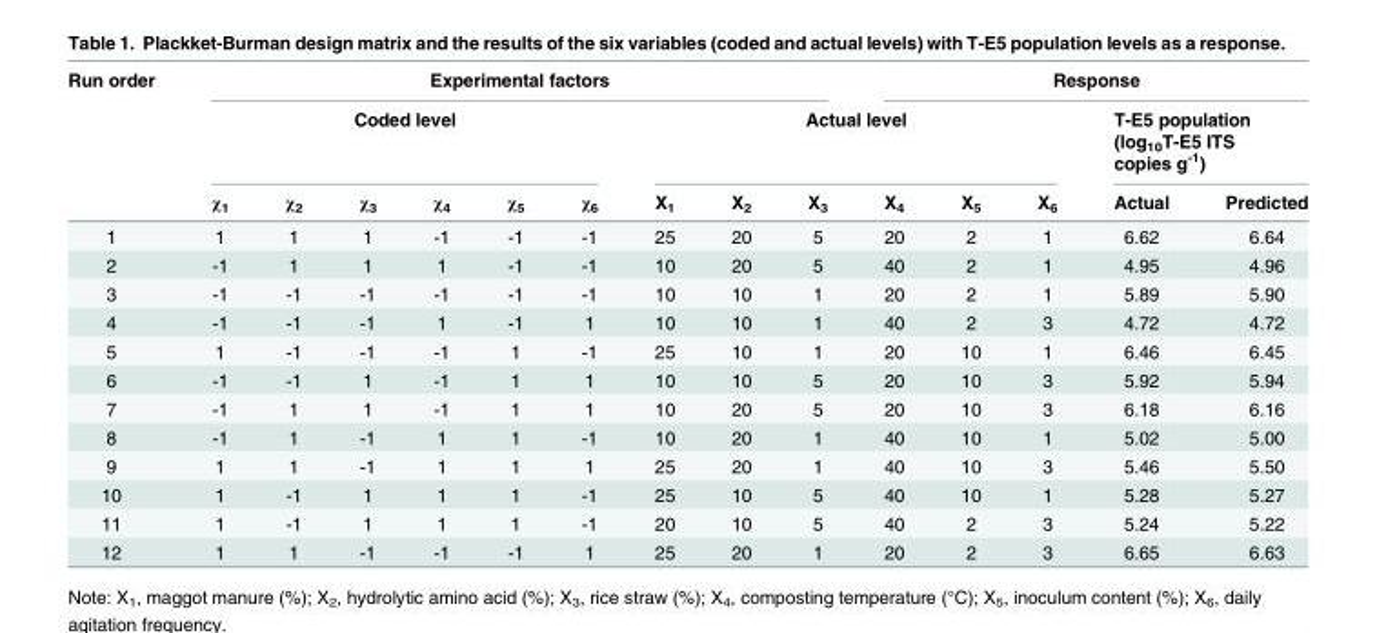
<table><thead><tr><td rowspan="3">Run order</td><td colspan="9">Experimental factors</td><td colspan="5">Response</td></tr><tr><td colspan="6">Coded level</td><td colspan="6">Actual level</td><td colspan="2">T-E5 population (log<sub>10</sub>T-E5 ITS copies g<sup>-1</sup>)</td></tr><tr><td>χ<sub>1</sub></td><td>χ<sub>2</sub></td><td>χ<sub>3</sub></td><td>χ<sub>4</sub></td><td>χ<sub>5</sub></td><td>χ<sub>6</sub></td><td>X<sub>1</sub></td><td>X<sub>2</sub></td><td>X<sub>3</sub></td><td>X<sub>4</sub></td><td>X<sub>5</sub></td><td>X<sub>6</sub></td><td>Actual</td><td>Predicted</td></tr></thead><tbody><tr><td>1</td><td>1</td><td>1</td><td>1</td><td>-1</td><td>-1</td><td>-1</td><td>25</td><td>20</td><td>5</td><td>20</td><td>2</td><td>1</td><td>6.62</td><td>6.64</td></tr><tr><td>2</td><td>-1</td><td>1</td><td>1</td><td>1</td><td>-1</td><td>-1</td><td>10</td><td>20</td><td>5</td><td>40</td><td>2</td><td>1</td><td>4.95</td><td>4.96</td></tr><tr><td>3</td><td>-1</td><td>-1</td><td>-1</td><td>-1</td><td>-1</td><td>-1</td><td>10</td><td>10</td><td>1</td><td>20</td><td>2</td><td>1</td><td>5.89</td><td>5.90</td></tr><tr><td>4</td><td>-1</td><td>-1</td><td>-1</td><td>1</td><td>-1</td><td>1</td><td>10</td><td>10</td><td>1</td><td>40</td><td>2</td><td>3</td><td>4.72</td><td>4.72</td></tr><tr><td>5</td><td>1</td><td>-1</td><td>-1</td><td>-1</td><td>1</td><td>-1</td><td>25</td><td>10</td><td>1</td><td>20</td><td>10</td><td>1</td><td>6.46</td><td>6.45</td></tr><tr><td>6</td><td>-1</td><td>-1</td><td>1</td><td>-1</td><td>1</td><td>1</td><td>10</td><td>10</td><td>5</td><td>20</td><td>10</td><td>3</td><td>5.92</td><td>5.94</td></tr><tr><td>7</td><td>-1</td><td>1</td><td>1</td><td>-1</td><td>1</td><td>1</td><td>10</td><td>20</td><td>5</td><td>20</td><td>10</td><td>3</td><td>6.18</td><td>6.16</td></tr><tr><td>8</td><td>-1</td><td>1</td><td>-1</td><td>1</td><td>1</td><td>-1</td><td>10</td><td>20</td><td>1</td><td>40</td><td>10</td><td>1</td><td>5.02</td><td>5.00</td></tr><tr><td>9</td><td>1</td><td>1</td><td>-1</td><td>1</td><td>1</td><td>1</td><td>25</td><td>20</td><td>1</td><td>40</td><td>10</td><td>3</td><td>5.46</td><td>5.50</td></tr><tr><td>10</td><td>1</td><td>-1</td><td>1</td><td>1</td><td>1</td><td>-1</td><td>25</td><td>10</td><td>5</td><td>40</td><td>10</td><td>1</td><td>5.28</td><td>5.27</td></tr><tr><td>11</td><td>1</td><td>-1</td><td>1</td><td>1</td><td>1</td><td>-1</td><td>20</td><td>10</td><td>5</td><td>40</td><td>2</td><td>3</td><td>5.24</td><td>5.22</td></tr><tr><td>12</td><td>1</td><td>1</td><td>-1</td><td>-1</td><td>-1</td><td>1</td><td>25</td><td>20</td><td>1</td><td>20</td><td>2</td><td>3</td><td>6.65</td><td>6.63</td></tr></tbody></table>